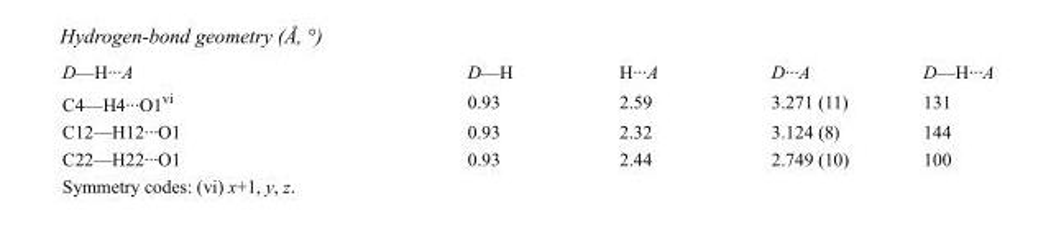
<table><tbody><tr><td>D—H···A</td><td>D—H</td><td>H···A</td><td>D···A</td><td>D—H···A</td></tr><tr><td>C4—H4···O1<sup>vi</sup></td><td>0.93</td><td>2.59</td><td>3.271 (11)</td><td>131</td></tr><tr><td>C12—H12···O1</td><td>0.93</td><td>2.32</td><td>3.124 (8)</td><td>144</td></tr><tr><td>C22—H22···O1</td><td>0.93</td><td>2.44</td><td>2.749 (10)</td><td>100</td></tr></tbody></table>